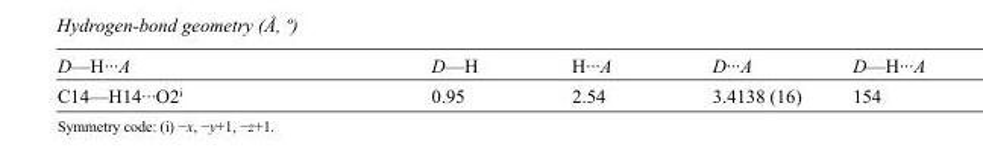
<table><tbody><tr><td>D—H···A</td><td>D—H</td><td>H···A</td><td>D···A</td><td>D—H···A</td></tr><tr><td>C14—H14···O2<sup>i</sup></td><td>0.95</td><td>2.54</td><td>3.4138 (16)</td><td>154</td></tr></tbody></table>